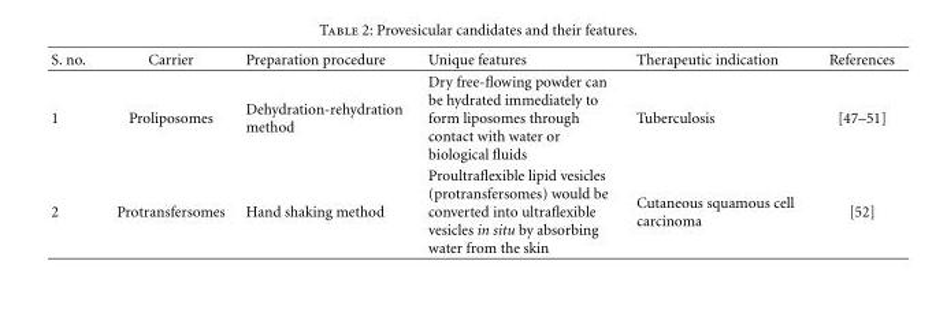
<table><thead><tr><td>S. no.</td><td>Carrier</td><td>Preparation procedure</td><td>Unique features</td><td>Therapeutic indication</td><td>References</td></tr></thead><tbody><tr><td>1</td><td>Proliposomes</td><td>Dehydration-rehydration method</td><td>Dry free-flowing powder can be hydrated immediately to form liposomes through contact with water or biological fluids</td><td>Tuberculosis</td><td>[47–51]</td></tr><tr><td>2</td><td>Protransfersomes</td><td>Hand shaking method</td><td>Proultraflexible lipid vesicles (protransfersomes) would be converted into ultraflexible vesicles in situ by absorbing water from the skin</td><td>Cutaneous squamous cell carcinoma</td><td>[52]</td></tr></tbody></table>